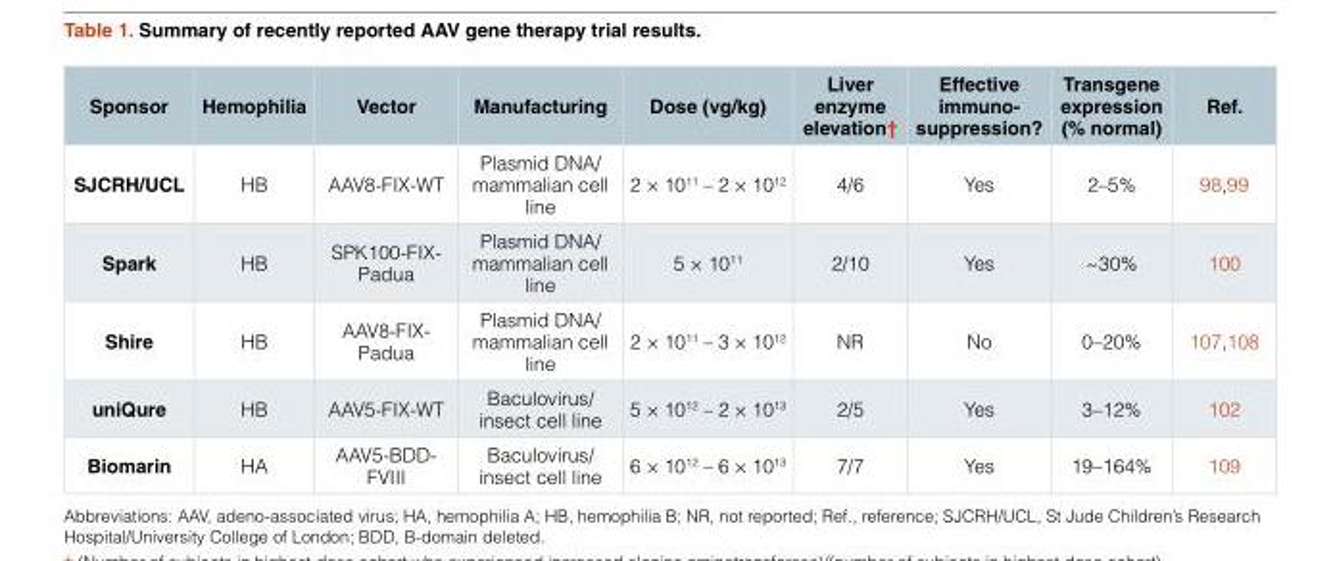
<table><thead><tr><td>Sponsor</td><td>Hemophilia</td><td>Vector</td><td>Manufacturing</td><td>Dose (vg/kg)</td><td>Liver enzyme elevation†</td><td>Effective immuno- suppression?</td><td>Transgene expression (% normal)</td><td>Ref.</td></tr></thead><tbody><tr><td>SJCRH/UCL</td><td>HB</td><td>AAV8-FIX-WT</td><td>Plasmid DNA/ mammalian cell line</td><td>2 × 10<sup>11</sup> – 2 × 10<sup>12</sup></td><td>4/6</td><td>Yes</td><td>2–5%</td><td>98,99</td></tr><tr><td>Spark</td><td>HB</td><td>SPK100-FIX- Padua</td><td>Plasmid DNA/ mammalian cell line</td><td>5 × 10<sup>11</sup></td><td>2/10</td><td>Yes</td><td>~30%</td><td>100</td></tr><tr><td>Shire</td><td>HB</td><td>AAV8-FIX- Padua</td><td>Plasmid DNA/ mammalian cell line</td><td>2 × 10<sup>11</sup> – 3 × 10<sup>12</sup></td><td>NR</td><td>No</td><td>0–20%</td><td>107,108</td></tr><tr><td>uniQure</td><td>HB</td><td>AAV5-FIX-WT</td><td>Baculovirus/ insect cell line</td><td>5 × 10<sup>12</sup> – 2 × 10<sup>13</sup></td><td>2/5</td><td>Yes</td><td>3–12%</td><td>102</td></tr><tr><td>Biomarin</td><td>HA</td><td>AAV5-BDD- FVIII</td><td>Baculovirus/ insect cell line</td><td>6 × 10<sup>12</sup> – 6 × 10<sup>13</sup></td><td>7/7</td><td>Yes</td><td>19–164%</td><td>109</td></tr></tbody></table>